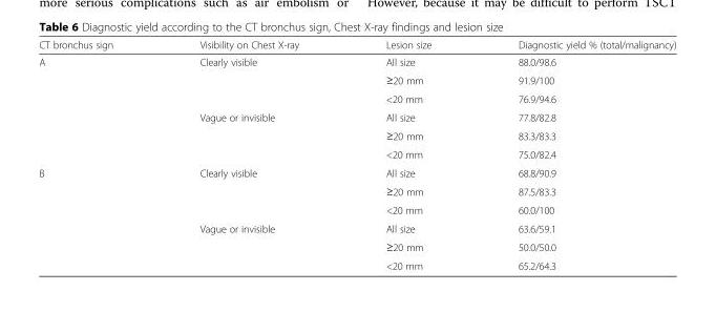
<table><thead><tr><td>CT bronchus sign</td><td>Visibility on Chest X-ray</td><td>Lesion size</td><td>Diagnostic yield % (total/malignancy)</td></tr></thead><tbody><tr><td rowspan="6">A</td><td rowspan="3">Clearly visible</td><td>All size</td><td>88.0/98.6</td></tr><tr><td>≥20 mm</td><td>91.9/100</td></tr><tr><td>&lt;20 mm</td><td>76.9/94.6</td></tr><tr><td rowspan="3">Vague or invisible</td><td>All size</td><td>77.8/82.8</td></tr><tr><td>≥20 mm</td><td>83.3/83.3</td></tr><tr><td>&lt;20 mm</td><td>75.0/82.4</td></tr><tr><td rowspan="6">B</td><td rowspan="3">Clearly visible</td><td>All size</td><td>68.8/90.9</td></tr><tr><td>≥20 mm</td><td>87.5/83.3</td></tr><tr><td>&lt;20 mm</td><td>60.0/100</td></tr><tr><td rowspan="3">Vague or invisible</td><td>All size</td><td>63.6/59.1</td></tr><tr><td>≥20 mm</td><td>50.0/50.0</td></tr><tr><td>&lt;20 mm</td><td>65.2/64.3</td></tr></tbody></table>